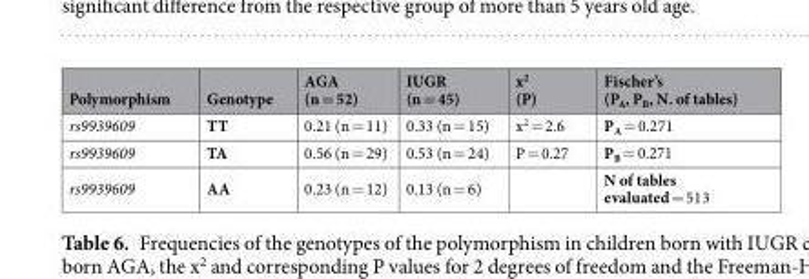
<table><thead><tr><td>Polymorphism</td><td>Genotype</td><td>AGA (n = 52)</td><td>IUGR (n = 45)</td><td>x<sup>2</sup> (P)</td><td>Fischer’s (P<sub>A</sub>, P<sub>B</sub>, N. of tables)</td></tr></thead><tbody><tr><td>rs9939609</td><td>TT</td><td>0.21 (n = 11)</td><td>0.33 (n = 15)</td><td>x<sup>2</sup> = 2.6</td><td>P<sub>A</sub> = 0.271</td></tr><tr><td>rs9939609</td><td>TA</td><td>0.56 (n = 29)</td><td>0.53 (n = 24)</td><td>P = 0.27</td><td>P<sub>B</sub> = 0.271</td></tr><tr><td>rs9939609</td><td>AA</td><td>0.23 (n = 12)</td><td>0.13 (n = 6)</td><td></td><td>N of tables evaluated = 513</td></tr></tbody></table>